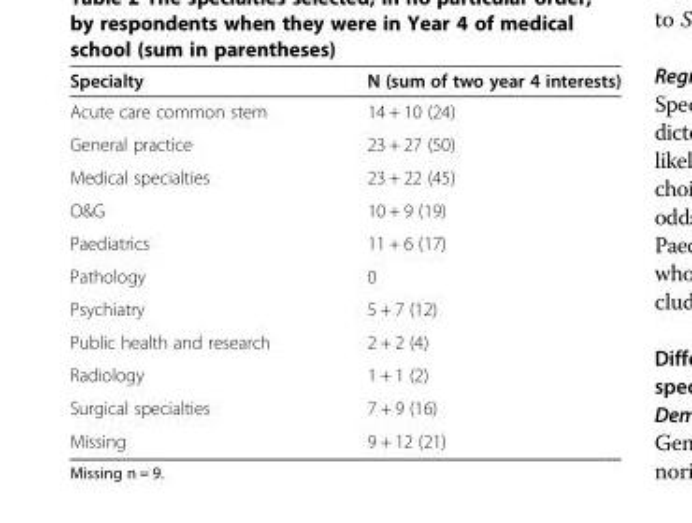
<table><thead><tr><td>Specialty</td><td>N (sum of two year 4 interests)</td></tr></thead><tbody><tr><td>Acute care common stem</td><td>14 + 10 (24)</td></tr><tr><td>General practice</td><td>23 + 27 (50)</td></tr><tr><td>Medical specialties</td><td>23 + 22 (45)</td></tr><tr><td>O&amp;G</td><td>10 + 9 (19)</td></tr><tr><td>Paediatrics</td><td>11 + 6 (17)</td></tr><tr><td>Pathology</td><td>0</td></tr><tr><td>Psychiatry</td><td>5 + 7 (12)</td></tr><tr><td>Public health and research</td><td>2 + 2 (4)</td></tr><tr><td>Radiology</td><td>1 + 1 (2)</td></tr><tr><td>Surgical specialties</td><td>7 + 9 (16)</td></tr><tr><td>Missing</td><td>9 + 12 (21)</td></tr></tbody></table>